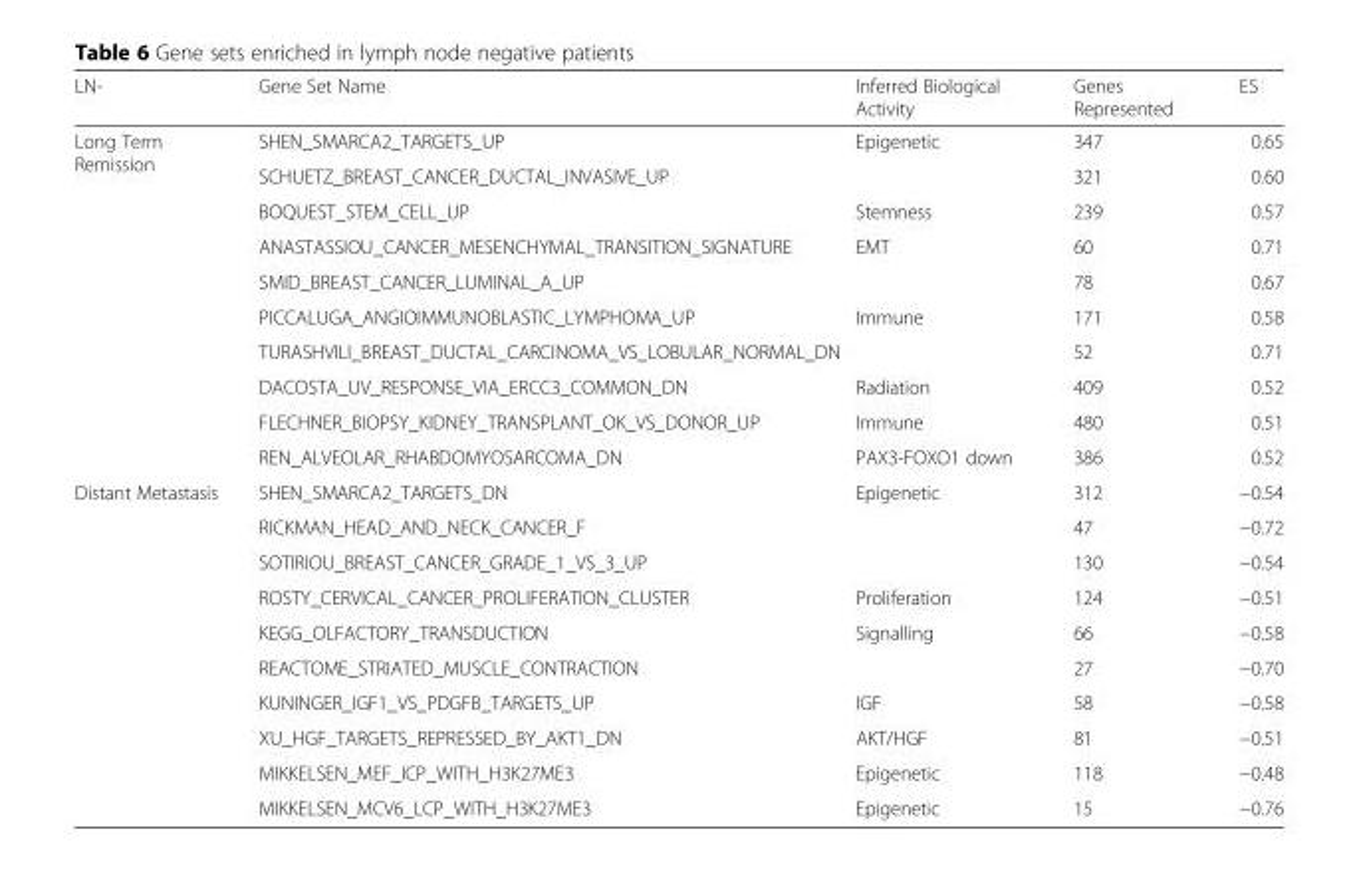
<table><thead><tr><td>LN-</td><td>Gene Set Name</td><td>Inferred Biological Activity</td><td>Genes Represented</td><td>ES</td></tr></thead><tbody><tr><td rowspan="10">Long Term Remission</td><td>SHEN_SMARCA2_TARGETS_UP</td><td>Epigenetic</td><td>347</td><td>0.65</td></tr><tr><td>SCHUETZ_BREAST_CANCER_DUCTAL_INVASIVE_UP</td><td></td><td>321</td><td>0.60</td></tr><tr><td>BOQUEST_STEM_CELL_UP</td><td>Stemness</td><td>239</td><td>0.57</td></tr><tr><td>ANASTASSIOU_CANCER_MESENCHYMAL_TRANSITION_SIGNATURE</td><td>EMT</td><td>60</td><td>0.71</td></tr><tr><td>SMID_BREAST_CANCER_LUMINAL_A_UP</td><td></td><td>78</td><td>0.67</td></tr><tr><td>PICCALUGA_ANGIOIMMUNOBLASTIC_LYMPHOMA_UP</td><td>Immune</td><td>171</td><td>0.58</td></tr><tr><td>TURASHVILI_BREAST_DUCTAL_CARCINOMA_VS_LOBULAR_NORMAL_DN</td><td></td><td>52</td><td>0.71</td></tr><tr><td>DACOSTA_UV_RESPONSE_VIA_ERCC3_COMMON_DN</td><td>Radiation</td><td>409</td><td>0.52</td></tr><tr><td>FLECHNER_BIOPSY_KIDNEY_TRANSPLANT_OK_VS_DONOR_UP</td><td>Immune</td><td>480</td><td>0.51</td></tr><tr><td>REN_ALVEOLAR_RHABDOMYOSARCOMA_DN</td><td>PAX3-FOXO1 down</td><td>386</td><td>0.52</td></tr><tr><td rowspan="10">Distant Metastasis</td><td>SHEN_SMARCA2_TARGETS_DN</td><td>Epigenetic</td><td>312</td><td>−0.54</td></tr><tr><td>RICKMAN_HEAD_AND_NECK_CANCER_F</td><td></td><td>47</td><td>−0.72</td></tr><tr><td>SOTIRIOU_BREAST_CANCER_GRADE_1_VS_3_UP</td><td></td><td>130</td><td>−0.54</td></tr><tr><td>ROSTY_CERVICAL_CANCER_PROLIFERATION_CLUSTER</td><td>Proliferation</td><td>124</td><td>−0.51</td></tr><tr><td>KEGG_OLFACTORY_TRANSDUCTION</td><td>Signalling</td><td>66</td><td>−0.58</td></tr><tr><td>REACTOME_STRIATED_MUSCLE_CONTRACTION</td><td></td><td>27</td><td>−0.70</td></tr><tr><td>KUNINGER_IGF1_VS_PDGFB_TARGETS_UP</td><td>IGF</td><td>58</td><td>−0.58</td></tr><tr><td>XU_HGF_TARGETS_REPRESSED_BY_AKT1_DN</td><td>AKT/HGF</td><td>81</td><td>−0.51</td></tr><tr><td>MIKKELSEN_MEF_ICP_WITH_H3K27ME3</td><td>Epigenetic</td><td>118</td><td>−0.48</td></tr><tr><td>MIKKELSEN_MCV6_LCP_WITH_H3K27ME3</td><td>Epigenetic</td><td>15</td><td>−0.76</td></tr></tbody></table>